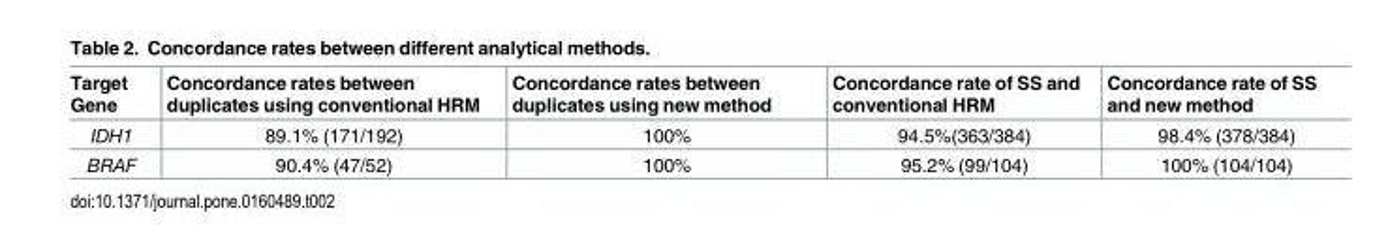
<table><thead><tr><td>Target Gene</td><td>Concordance rates between duplicates using conventional HRM</td><td>Concordance rates between duplicates using new method</td><td>Concordance rate of SS and conventional HRM</td><td>Concordance rate of SS and new method</td></tr></thead><tbody><tr><td>IDH1</td><td>89.1% (171/192)</td><td>100%</td><td>94.5%(363/384)</td><td>98.4% (378/384)</td></tr><tr><td>BRAF</td><td>90.4% (47/52)</td><td>100%</td><td>95.2% (99/104)</td><td>100% (104/104)</td></tr></tbody></table>